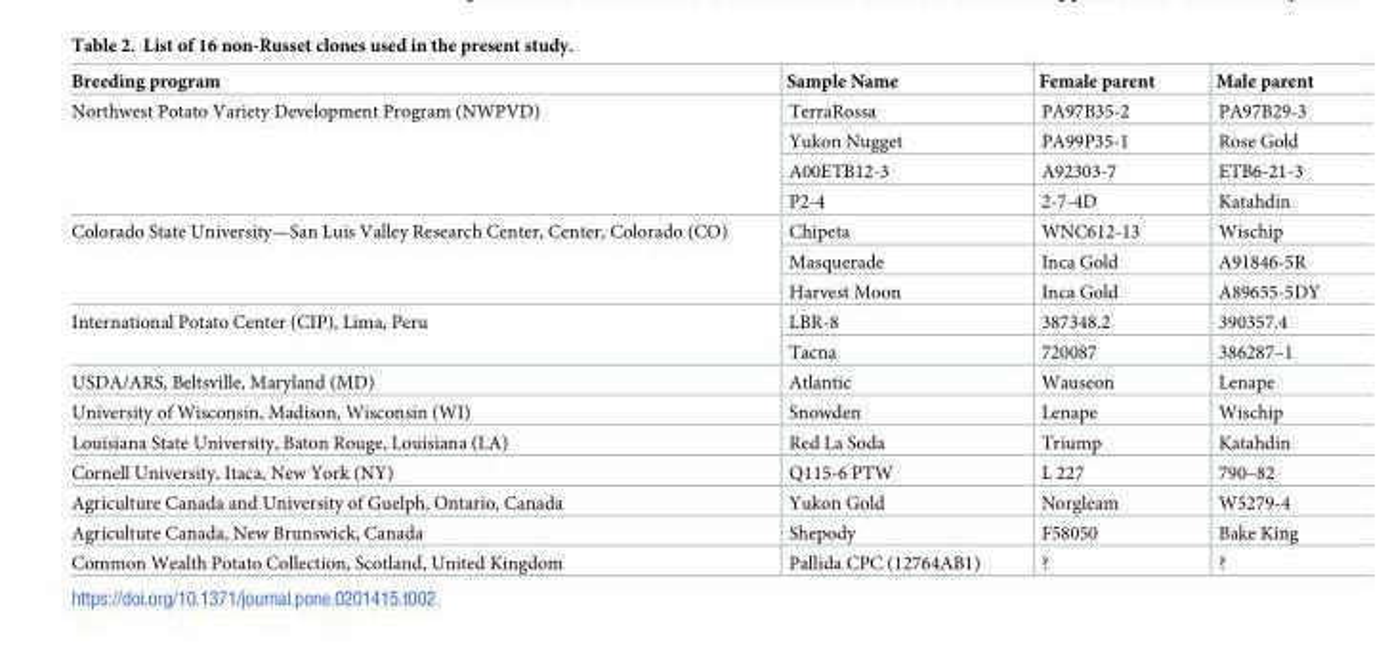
<table><thead><tr><td>Breeding program</td><td>Sample Name</td><td>Female parent</td><td>Male parent</td></tr></thead><tbody><tr><td rowspan="4">Northwest Potato Variety Development Program (NWPVD)</td><td>TerraRossa</td><td>PA97B35-2</td><td>PA97B29-3</td></tr><tr><td>Yukon Nugget</td><td>PA99P35-1</td><td>Rose Gold</td></tr><tr><td>A00ETB12-3</td><td>A92303-7</td><td>ETB6-21-3</td></tr><tr><td>P2-4</td><td>2-7-4D</td><td>Katahdin</td></tr><tr><td rowspan="3">Colorado State University—San Luis Valley Research Center, Center, Colorado (CO)</td><td>Chipeta</td><td>WNC612-13</td><td>Wischip</td></tr><tr><td>Masquerade</td><td>Inca Gold</td><td>A91846-5R</td></tr><tr><td>Harvest Moon</td><td>Inca Gold</td><td>A89655-5DY</td></tr><tr><td rowspan="2">International Potato Center (CIP), Lima, Peru</td><td>LBR-8</td><td>387348.2</td><td>390357.4</td></tr><tr><td>Tacna</td><td>720087</td><td>386287–1</td></tr><tr><td>USDA/ARS, Beltsville, Maryland (MD)</td><td>Atlantic</td><td>Wauseon</td><td>Lenape</td></tr><tr><td>University of Wisconsin, Madison, Wisconsin (WI)</td><td>Snowden</td><td>Lenape</td><td>Wischip</td></tr><tr><td>Louisiana State University, Baton Rouge, Louisiana (LA)</td><td>Red La Soda</td><td>Triump</td><td>Katahdin</td></tr><tr><td>Cornell University, Itaca, New York (NY)</td><td>Q115-6 PTW</td><td>L 227</td><td>790–82</td></tr><tr><td>Agriculture Canada and University of Guelph, Ontario, Canada</td><td>Yukon Gold</td><td>Norgleam</td><td>W5279-4</td></tr><tr><td>Agriculture Canada, New Brunswick, Canada</td><td>Shepody</td><td>F58050</td><td>Bake King</td></tr><tr><td>Common Wealth Potato Collection, Scotland, United Kingdom</td><td>Pallida CPC (12764AB1)</td><td>?</td><td>?</td></tr></tbody></table>